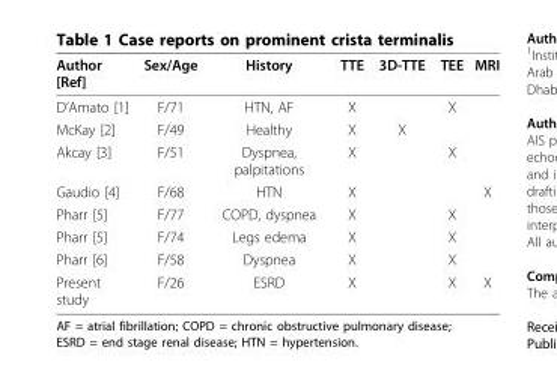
<table><tbody><tr><td>Author [Ref]</td><td>Sex/Age</td><td>History</td><td>TTE</td><td>3D-TTE</td><td>TEE</td><td>MRI</td></tr><tr><td>D’Amato [1]</td><td>F/71</td><td>HTN, AF</td><td>X</td><td></td><td>X</td><td></td></tr><tr><td>McKay [2]</td><td>F/49</td><td>Healthy</td><td>X</td><td>X</td><td></td><td></td></tr><tr><td>Akcay [3]</td><td>F/51</td><td>Dyspnea, palpitations</td><td>X</td><td></td><td>X</td><td></td></tr><tr><td>Gaudio [4]</td><td>F/68</td><td>HTN</td><td>X</td><td></td><td></td><td>X</td></tr><tr><td>Pharr [5]</td><td>F/77</td><td>COPD, dyspnea</td><td>X</td><td></td><td>X</td><td></td></tr><tr><td>Pharr [5]</td><td>F/74</td><td>Legs edema</td><td>X</td><td></td><td>X</td><td></td></tr><tr><td>Pharr [6]</td><td>F/58</td><td>Dyspnea</td><td>X</td><td></td><td>X</td><td></td></tr><tr><td>Present study</td><td>F/26</td><td>ESRD</td><td>X</td><td></td><td>X</td><td>X</td></tr></tbody></table>